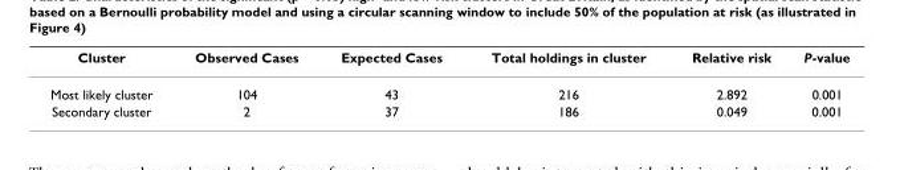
<table><thead><tr><td>Cluster</td><td>Observed Cases</td><td>Expected Cases</td><td>Total holdings in cluster</td><td>Relative risk</td><td>P-value</td></tr></thead><tbody><tr><td>Most likely cluster</td><td>104</td><td>43</td><td>216</td><td>2.892</td><td>0.001</td></tr><tr><td>Secondary cluster</td><td>2</td><td>37</td><td>186</td><td>0.049</td><td>0.001</td></tr></tbody></table>